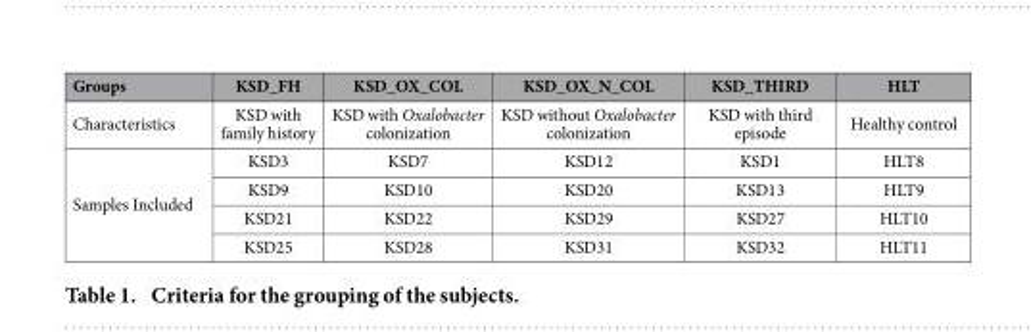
<table><thead><tr><td>Groups</td><td>KSD_FH</td><td>KSD_OX_COL</td><td>KSD_OX_N_COL</td><td>KSD_THIRD</td><td>HLT</td></tr></thead><tbody><tr><td>Characteristics</td><td>KSD with family history</td><td>KSD with Oxalobacter colonization</td><td>KSD without Oxalobacter colonization</td><td>KSD with third episode</td><td>Healthy control</td></tr><tr><td rowspan="4">Samples Included</td><td>KSD3</td><td>KSD7</td><td>KSD12</td><td>KSD1</td><td>HLT8</td></tr><tr><td>KSD9</td><td>KSD10</td><td>KSD20</td><td>KSD13</td><td>HLT9</td></tr><tr><td>KSD21</td><td>KSD22</td><td>KSD29</td><td>KSD27</td><td>HLT10</td></tr><tr><td>KSD25</td><td>KSD28</td><td>KSD31</td><td>KSD32</td><td>HLT11</td></tr></tbody></table>